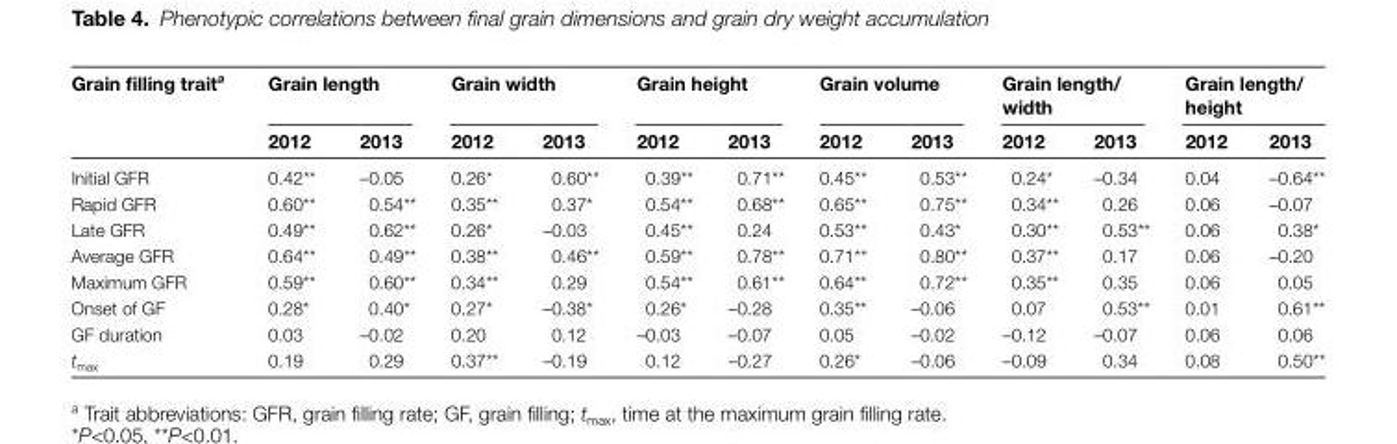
<table><thead><tr><td rowspan="2">Grain filling trait<sup>a</sup></td><td colspan="2">Grain length</td><td colspan="2">Grain width</td><td colspan="2">Grain height</td><td colspan="2">Grain volume</td><td colspan="2">Grain length/ width</td><td colspan="2">Grain length/ height</td></tr><tr><td>2012</td><td>2013</td><td>2012</td><td>2013</td><td>2012</td><td>2013</td><td>2012</td><td>2013</td><td>2012</td><td>2013</td><td>2012</td><td>2013</td></tr></thead><tbody><tr><td>Initial GFR</td><td>0.42**</td><td>–0.05</td><td>0.26*</td><td>0.60**</td><td>0.39**</td><td>0.71**</td><td>0.45**</td><td>0.53**</td><td>0.24*</td><td>–0.34</td><td>0.04</td><td>–0.64**</td></tr><tr><td>Rapid GFR</td><td>0.60**</td><td>0.54**</td><td>0.35**</td><td>0.37*</td><td>0.54**</td><td>0.68**</td><td>0.65**</td><td>0.75**</td><td>0.34**</td><td>0.26</td><td>0.06</td><td>–0.07</td></tr><tr><td>Late GFR</td><td>0.49**</td><td>0.62**</td><td>0.26*</td><td>–0.03</td><td>0.45**</td><td>0.24</td><td>0.53**</td><td>0.43*</td><td>0.30**</td><td>0.53**</td><td>0.06</td><td>0.38*</td></tr><tr><td>Average GFR</td><td>0.64**</td><td>0.49**</td><td>0.38**</td><td>0.46**</td><td>0.59**</td><td>0.78**</td><td>0.71**</td><td>0.80**</td><td>0.37**</td><td>0.17</td><td>0.06</td><td>–0.20</td></tr><tr><td>Maximum GFR</td><td>0.59**</td><td>0.60**</td><td>0.34**</td><td>0.29</td><td>0.54**</td><td>0.61**</td><td>0.64**</td><td>0.72**</td><td>0.35**</td><td>0.35</td><td>0.06</td><td>0.05</td></tr><tr><td>Onset of GF</td><td>0.28*</td><td>0.40*</td><td>0.27*</td><td>–0.38*</td><td>0.26*</td><td>–0.28</td><td>0.35**</td><td>–0.06</td><td>0.07</td><td>0.53**</td><td>0.01</td><td>0.61**</td></tr><tr><td>GF duration</td><td>0.03</td><td>–0.02</td><td>0.20</td><td>0.12</td><td>–0.03</td><td>–0.07</td><td>0.05</td><td>–0.02</td><td>–0.12</td><td>–0.07</td><td>0.06</td><td>0.06</td></tr><tr><td>t<sub>max</sub></td><td>0.19</td><td>0.29</td><td>0.37**</td><td>–0.19</td><td>0.12</td><td>–0.27</td><td>0.26*</td><td>–0.06</td><td>–0.09</td><td>0.34</td><td>0.08</td><td>0.50**</td></tr></tbody></table>